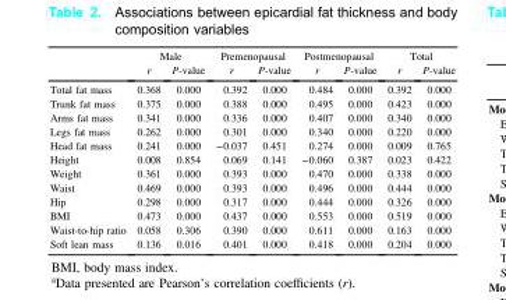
<table><thead><tr><td rowspan="2"></td><td colspan="2">Male</td><td colspan="2">Premenopausal</td><td colspan="2">Postmenopausal</td><td colspan="2">Total</td></tr><tr><td>r</td><td>P-value</td><td>r</td><td>P-value</td><td>r</td><td>P-value</td><td>r</td><td>P-value</td></tr></thead><tbody><tr><td>Total fat mass</td><td>0.368</td><td>0.000</td><td>0.392</td><td>0.000</td><td>0.484</td><td>0.000</td><td>0.392</td><td>0.000</td></tr><tr><td>Trunk fat mass</td><td>0.375</td><td>0.000</td><td>0.388</td><td>0.000</td><td>0.495</td><td>0.000</td><td>0.423</td><td>0.000</td></tr><tr><td>Arms fat mass</td><td>0.341</td><td>0.000</td><td>0.336</td><td>0.000</td><td>0.407</td><td>0.000</td><td>0.340</td><td>0.000</td></tr><tr><td>Legs fat mass</td><td>0.262</td><td>0.000</td><td>0.301</td><td>0.000</td><td>0.340</td><td>0.000</td><td>0.220</td><td>0.000</td></tr><tr><td>Head fat mass</td><td>0.241</td><td>0.000</td><td>−0.037</td><td>0.451</td><td>0.274</td><td>0.000</td><td>0.009</td><td>0.765</td></tr><tr><td>Height</td><td>0.008</td><td>0.854</td><td>0.069</td><td>0.141</td><td>−0.060</td><td>0.387</td><td>0.023</td><td>0.422</td></tr><tr><td>Weight</td><td>0.361</td><td>0.000</td><td>0.393</td><td>0.000</td><td>0.470</td><td>0.000</td><td>0.338</td><td>0.000</td></tr><tr><td>Waist</td><td>0.469</td><td>0.000</td><td>0.393</td><td>0.000</td><td>0.496</td><td>0.000</td><td>0.444</td><td>0.000</td></tr><tr><td>Hip</td><td>0.298</td><td>0.000</td><td>0.317</td><td>0.000</td><td>0.444</td><td>0.000</td><td>0.326</td><td>0.000</td></tr><tr><td>BMI</td><td>0.473</td><td>0.000</td><td>0.437</td><td>0.000</td><td>0.553</td><td>0.000</td><td>0.519</td><td>0.000</td></tr><tr><td>Waist-to-hip ratio</td><td>0.058</td><td>0.306</td><td>0.390</td><td>0.000</td><td>0.611</td><td>0.000</td><td>0.163</td><td>0.000</td></tr><tr><td>Soft lean mass</td><td>0.136</td><td>0.016</td><td>0.401</td><td>0.000</td><td>0.418</td><td>0.000</td><td>0.204</td><td>0.000</td></tr></tbody></table>